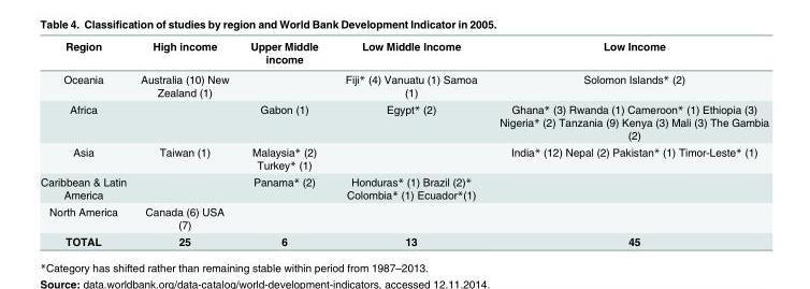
<table><thead><tr><td>Region</td><td>High income</td><td>Upper Middle income</td><td>Low Middle Income</td><td>Low Income</td></tr></thead><tbody><tr><td>Oceania</td><td>Australia (10) New Zealand (1)</td><td></td><td>Fiji* (4) Vanuatu (1) Samoa (1)</td><td>Solomon Islands* (2)</td></tr><tr><td>Africa</td><td></td><td>Gabon (1)</td><td>Egypt* (2)</td><td>Ghana* (3) Rwanda (1) Cameroon* (1) Ethiopia (3) Nigeria* (2) Tanzania (9) Kenya (3) Mali (3) The Gambia (2)</td></tr><tr><td>Asia</td><td>Taiwan (1)</td><td>Malaysia* (2) Turkey* (1)</td><td></td><td>India* (12) Nepal (2) Pakistan* (1) Timor-Leste* (1)</td></tr><tr><td>Caribbean &amp; Latin America</td><td></td><td>Panama* (2)</td><td>Honduras* (1) Brazil (2)* Colombia* (1) Ecuador*(1)</td><td></td></tr><tr><td>North America</td><td>Canada (6) USA (7)</td><td></td><td></td><td></td></tr><tr><td>TOTAL</td><td>25</td><td>6</td><td>13</td><td>45</td></tr></tbody></table>